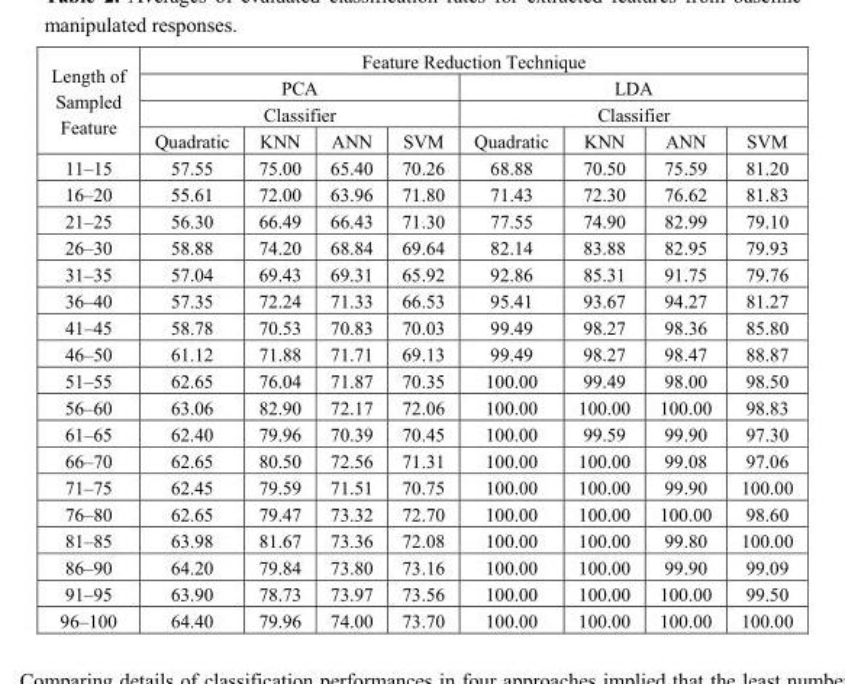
<table><thead><tr><td rowspan="4">Length of Sampled Feature</td><td colspan="8">Feature Reduction Technique</td></tr><tr><td rowspan="2" colspan="4">PCA Classifier</td><td rowspan="2" colspan="4">LDA Classifier</td></tr><tr></tr><tr><td>Quadratic</td><td>KNN</td><td>ANN</td><td>SVM</td><td>Quadratic</td><td>KNN</td><td>ANN</td><td>SVM</td></tr></thead><tbody><tr><td>11–15</td><td>57.55</td><td>75.00</td><td>65.40</td><td>70.26</td><td>68.88</td><td>70.50</td><td>75.59</td><td>81.20</td></tr><tr><td>16–20</td><td>55.61</td><td>72.00</td><td>63.96</td><td>71.80</td><td>71.43</td><td>72.30</td><td>76.62</td><td>81.83</td></tr><tr><td>21–25</td><td>56.30</td><td>66.49</td><td>66.43</td><td>71.30</td><td>77.55</td><td>74.90</td><td>82.99</td><td>79.10</td></tr><tr><td>26–30</td><td>58.88</td><td>74.20</td><td>68.84</td><td>69.64</td><td>82.14</td><td>83.88</td><td>82.95</td><td>79.93</td></tr><tr><td>31–35</td><td>57.04</td><td>69.43</td><td>69.31</td><td>65.92</td><td>92.86</td><td>85.31</td><td>91.75</td><td>79.76</td></tr><tr><td>36–40</td><td>57.35</td><td>72.24</td><td>71.33</td><td>66.53</td><td>95.41</td><td>93.67</td><td>94.27</td><td>81.27</td></tr><tr><td>41–45</td><td>58.78</td><td>70.53</td><td>70.83</td><td>70.03</td><td>99.49</td><td>98.27</td><td>98.36</td><td>85.80</td></tr><tr><td>46–50</td><td>61.12</td><td>71.88</td><td>71.71</td><td>69.13</td><td>99.49</td><td>98.27</td><td>98.47</td><td>88.87</td></tr><tr><td>51–55</td><td>62.65</td><td>76.04</td><td>71.87</td><td>70.35</td><td>100.00</td><td>99.49</td><td>98.00</td><td>98.50</td></tr><tr><td>56–60</td><td>63.06</td><td>82.90</td><td>72.17</td><td>72.06</td><td>100.00</td><td>100.00</td><td>100.00</td><td>98.83</td></tr><tr><td>61–65</td><td>62.40</td><td>79.96</td><td>70.39</td><td>70.45</td><td>100.00</td><td>99.59</td><td>99.90</td><td>97.30</td></tr><tr><td>66–70</td><td>62.65</td><td>80.50</td><td>72.56</td><td>71.31</td><td>100.00</td><td>100.00</td><td>99.08</td><td>97.06</td></tr><tr><td>71–75</td><td>62.45</td><td>79.59</td><td>71.51</td><td>70.75</td><td>100.00</td><td>100.00</td><td>99.90</td><td>100.00</td></tr><tr><td>76–80</td><td>62.65</td><td>79.47</td><td>73.32</td><td>72.70</td><td>100.00</td><td>100.00</td><td>100.00</td><td>98.60</td></tr><tr><td>81–85</td><td>63.98</td><td>81.67</td><td>73.36</td><td>72.08</td><td>100.00</td><td>100.00</td><td>99.80</td><td>100.00</td></tr><tr><td>86–90</td><td>64.20</td><td>79.84</td><td>73.80</td><td>73.16</td><td>100.00</td><td>100.00</td><td>99.90</td><td>99.09</td></tr><tr><td>91–95</td><td>63.90</td><td>78.73</td><td>73.97</td><td>73.56</td><td>100.00</td><td>100.00</td><td>100.00</td><td>99.50</td></tr><tr><td>96–100</td><td>64.40</td><td>79.96</td><td>74.00</td><td>73.70</td><td>100.00</td><td>100.00</td><td>100.00</td><td>100.00</td></tr></tbody></table>